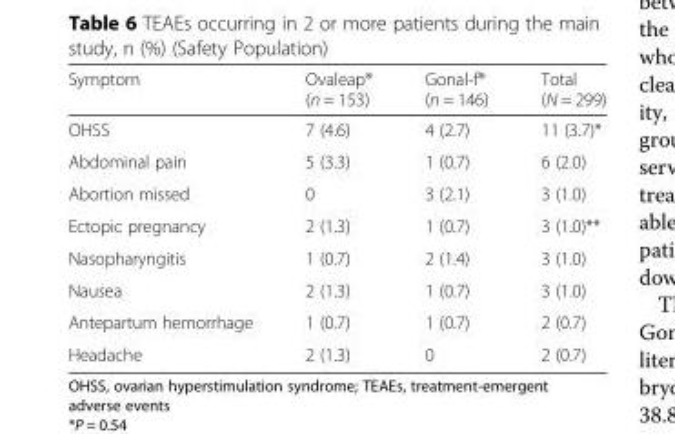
<table><thead><tr><td>Symptom</td><td>Ovaleap® (n = 153)</td><td>Gonal-f® (n = 146)</td><td>Total (N = 299)</td></tr></thead><tbody><tr><td>OHSS</td><td>7 (4.6)</td><td>4 (2.7)</td><td>11 (3.7)*</td></tr><tr><td>Abdominal pain</td><td>5 (3.3)</td><td>1 (0.7)</td><td>6 (2.0)</td></tr><tr><td>Abortion missed</td><td>0</td><td>3 (2.1)</td><td>3 (1.0)</td></tr><tr><td>Ectopic pregnancy</td><td>2 (1.3)</td><td>1 (0.7)</td><td>3 (1.0)**</td></tr><tr><td>Nasopharyngitis</td><td>1 (0.7)</td><td>2 (1.4)</td><td>3 (1.0)</td></tr><tr><td>Nausea</td><td>2 (1.3)</td><td>1 (0.7)</td><td>3 (1.0)</td></tr><tr><td>Antepartum hemorrhage</td><td>1 (0.7)</td><td>1 (0.7)</td><td>2 (0.7)</td></tr><tr><td>Headache</td><td>2 (1.3)</td><td>0</td><td>2 (0.7)</td></tr></tbody></table>